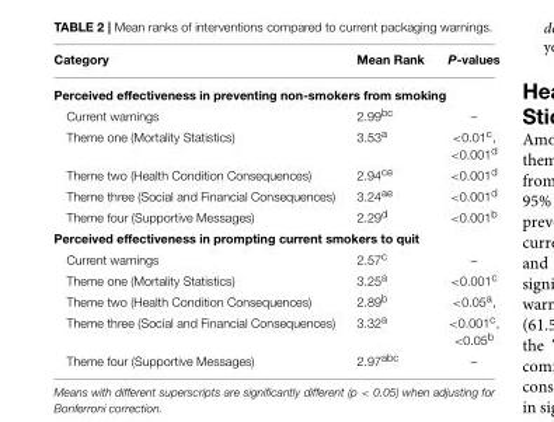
<table><thead><tr><td>Category</td><td>Mean Rank</td><td>P-values</td></tr></thead><tbody><tr><td colspan="3">Perceived effectiveness in preventing non-smokers from smoking</td></tr><tr><td>Current warnings</td><td>2.99<sup>bc</sup></td><td>–</td></tr><tr><td>Theme one (Mortality Statistics)</td><td>3.53<sup>a</sup></td><td>&lt;0.01<sup>c</sup>, &lt;0.001<sup>d</sup></td></tr><tr><td>Theme two (Health Condition Consequences)</td><td>2.94<sup>ce</sup></td><td>&lt;0.001<sup>d</sup></td></tr><tr><td>Theme three (Social and Financial Consequences)</td><td>3.24<sup>ae</sup></td><td>&lt;0.001<sup>d</sup></td></tr><tr><td>Theme four (Supportive Messages)</td><td>2.29<sup>d</sup></td><td>&lt;0.001<sup>b</sup></td></tr><tr><td colspan="3">Perceived effectiveness in prompting current smokers to quit</td></tr><tr><td>Current warnings</td><td>2.57<sup>c</sup></td><td>–</td></tr><tr><td>Theme one (Mortality Statistics)</td><td>3.25<sup>a</sup></td><td>&lt;0.001<sup>c</sup></td></tr><tr><td>Theme two (Health Condition Consequences)</td><td>2.89<sup>b</sup></td><td>&lt;0.05<sup>a</sup>,</td></tr><tr><td>Theme three (Social and Financial Consequences)</td><td>3.32<sup>a</sup></td><td>&lt;0.001<sup>c</sup>, &lt;0.05<sup>b</sup></td></tr><tr><td>Theme four (Supportive Messages)</td><td>2.97<sup>abc</sup></td><td>–</td></tr></tbody></table>